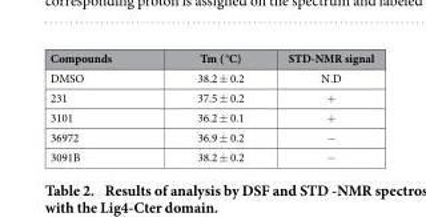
<table><thead><tr><td>Compounds</td><td>Tm ( °C)</td><td>STD-NMR signal</td></tr></thead><tbody><tr><td>DMSO</td><td>38.2 ± 0.2</td><td>N.D</td></tr><tr><td>231</td><td>37.5 ± 0.2</td><td>+</td></tr><tr><td>3101</td><td>36.2 ± 0.1</td><td>+</td></tr><tr><td>36972</td><td>36.9 ± 0.2</td><td>−</td></tr><tr><td>3091B</td><td>38.2 ± 0.2</td><td>−</td></tr></tbody></table>